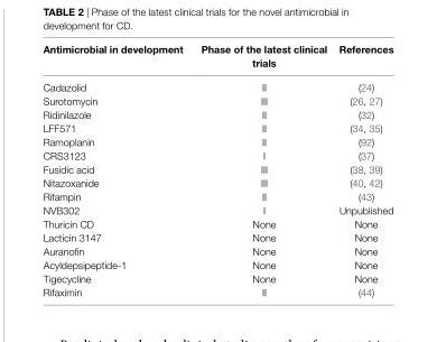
<table><thead><tr><td>Antimicrobial in development</td><td>Phase of the latest clinical trials</td><td>References</td></tr></thead><tbody><tr><td>Cadazolid</td><td>II</td><td>(24)</td></tr><tr><td>Surotomycin</td><td>III</td><td>(26, 27)</td></tr><tr><td>Ridinilazole</td><td>II</td><td>(32)</td></tr><tr><td>LFF571</td><td>II</td><td>(34, 35)</td></tr><tr><td>Ramoplanin</td><td>II</td><td>(92)</td></tr><tr><td>CRS3123</td><td>I</td><td>(37)</td></tr><tr><td>Fusidic acid</td><td>III</td><td>(38, 39)</td></tr><tr><td>Nitazoxanide</td><td>III</td><td>(40, 42)</td></tr><tr><td>Rifampin</td><td>II</td><td>(43)</td></tr><tr><td>NVB302</td><td>I</td><td>Unpublished</td></tr><tr><td>Thuricin CD</td><td>None</td><td>None</td></tr><tr><td>Lacticin 3147</td><td>None</td><td>None</td></tr><tr><td>Auranofin</td><td>None</td><td>None</td></tr><tr><td>Acyldepsipeptide-1</td><td>None</td><td>None</td></tr><tr><td>Tigecycline</td><td>None</td><td>None</td></tr><tr><td>Rifaximin</td><td>II</td><td>(44)</td></tr></tbody></table>